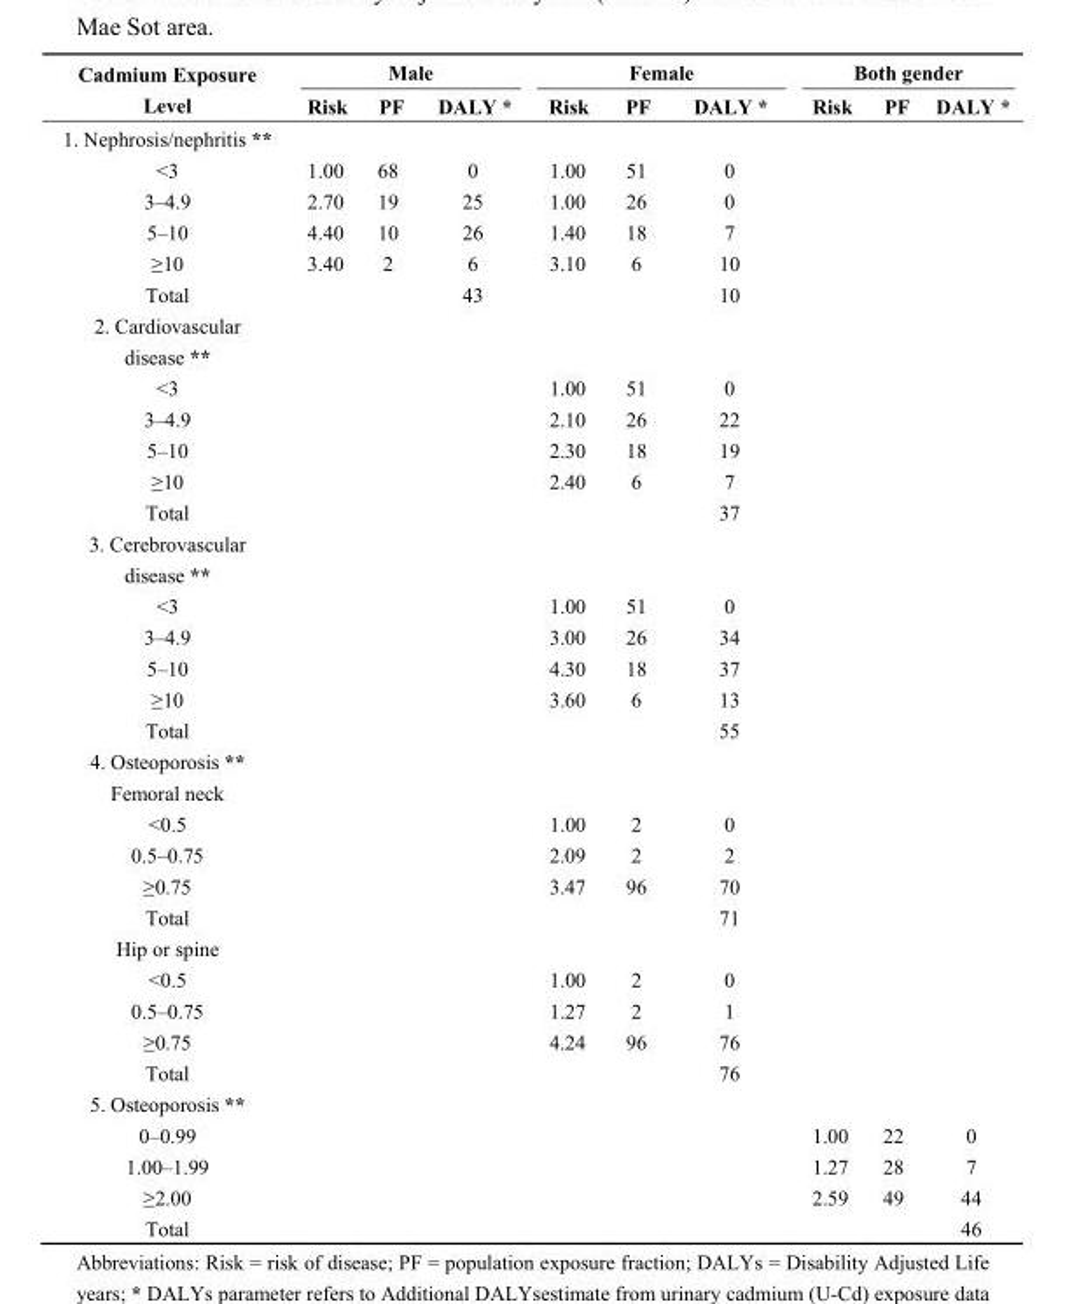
<table><thead><tr><td rowspan="2">Cadmium Exposure Level</td><td colspan="3">Male</td><td colspan="3">Female</td><td colspan="3">Both gender</td></tr><tr><td>Risk</td><td>PF</td><td>DALY *</td><td>Risk</td><td>PF</td><td>DALY *</td><td>Risk</td><td>PF</td><td>DALY *</td></tr></thead><tbody><tr><td colspan="10">1. Nephrosis/nephritis **</td></tr><tr><td>&lt;3</td><td>1.00</td><td>68</td><td>0</td><td>1.00</td><td>51</td><td>0</td><td></td><td></td><td></td></tr><tr><td>3–4.9</td><td>2.70</td><td>19</td><td>25</td><td>1.00</td><td>26</td><td>0</td><td></td><td></td><td></td></tr><tr><td>5–10</td><td>4.40</td><td>10</td><td>26</td><td>1.40</td><td>18</td><td>7</td><td></td><td></td><td></td></tr><tr><td>≥10</td><td>3.40</td><td>2</td><td>6</td><td>3.10</td><td>6</td><td>10</td><td></td><td></td><td></td></tr><tr><td>Total</td><td></td><td></td><td>43</td><td></td><td></td><td>10</td><td></td><td></td><td></td></tr><tr><td colspan="10">2. Cardiovascular disease **</td></tr><tr><td>&lt;3</td><td></td><td></td><td></td><td>1.00</td><td>51</td><td>0</td><td></td><td></td><td></td></tr><tr><td>3–4.9</td><td></td><td></td><td></td><td>2.10</td><td>26</td><td>22</td><td></td><td></td><td></td></tr><tr><td>5–10</td><td></td><td></td><td></td><td>2.30</td><td>18</td><td>19</td><td></td><td></td><td></td></tr><tr><td>≥10</td><td></td><td></td><td></td><td>2.40</td><td>6</td><td>7</td><td></td><td></td><td></td></tr><tr><td>Total</td><td></td><td></td><td></td><td></td><td></td><td>37</td><td></td><td></td><td></td></tr><tr><td colspan="10">3. Cerebrovascular disease **</td></tr><tr><td>&lt;3</td><td></td><td></td><td></td><td>1.00</td><td>51</td><td>0</td><td></td><td></td><td></td></tr><tr><td>3–4.9</td><td></td><td></td><td></td><td>3.00</td><td>26</td><td>34</td><td></td><td></td><td></td></tr><tr><td>5–10</td><td></td><td></td><td></td><td>4.30</td><td>18</td><td>37</td><td></td><td></td><td></td></tr><tr><td>≥10</td><td></td><td></td><td></td><td>3.60</td><td>6</td><td>13</td><td></td><td></td><td></td></tr><tr><td>Total</td><td></td><td></td><td></td><td></td><td></td><td>55</td><td></td><td></td><td></td></tr><tr><td colspan="10">4. Osteoporosis **</td></tr><tr><td colspan="10">Femoral neck</td></tr><tr><td>&lt;0.5</td><td></td><td></td><td></td><td>1.00</td><td>2</td><td>0</td><td></td><td></td><td></td></tr><tr><td>0.5–0.75</td><td></td><td></td><td></td><td>2.09</td><td>2</td><td>2</td><td></td><td></td><td></td></tr><tr><td>≥0.75</td><td></td><td></td><td></td><td>3.47</td><td>96</td><td>70</td><td></td><td></td><td></td></tr><tr><td>Total</td><td></td><td></td><td></td><td></td><td></td><td>71</td><td></td><td></td><td></td></tr><tr><td colspan="10">Hip or spine</td></tr><tr><td>&lt;0.5</td><td></td><td></td><td></td><td>1.00</td><td>2</td><td>0</td><td></td><td></td><td></td></tr><tr><td>0.5–0.75</td><td></td><td></td><td></td><td>1.27</td><td>2</td><td>1</td><td></td><td></td><td></td></tr><tr><td>≥0.75</td><td></td><td></td><td></td><td>4.24</td><td>96</td><td>76</td><td></td><td></td><td></td></tr><tr><td>Total</td><td></td><td></td><td></td><td></td><td></td><td>76</td><td></td><td></td><td></td></tr><tr><td colspan="10">5. Osteoporosis **</td></tr><tr><td>0–0.99</td><td></td><td></td><td></td><td></td><td></td><td></td><td>1.00</td><td>22</td><td>0</td></tr><tr><td>1.00–1.99</td><td></td><td></td><td></td><td></td><td></td><td></td><td>1.27</td><td>28</td><td>7</td></tr><tr><td>≥2.00</td><td></td><td></td><td></td><td></td><td></td><td></td><td>2.59</td><td>49</td><td>44</td></tr><tr><td>Total</td><td></td><td></td><td></td><td></td><td></td><td></td><td></td><td></td><td>46</td></tr></tbody></table>